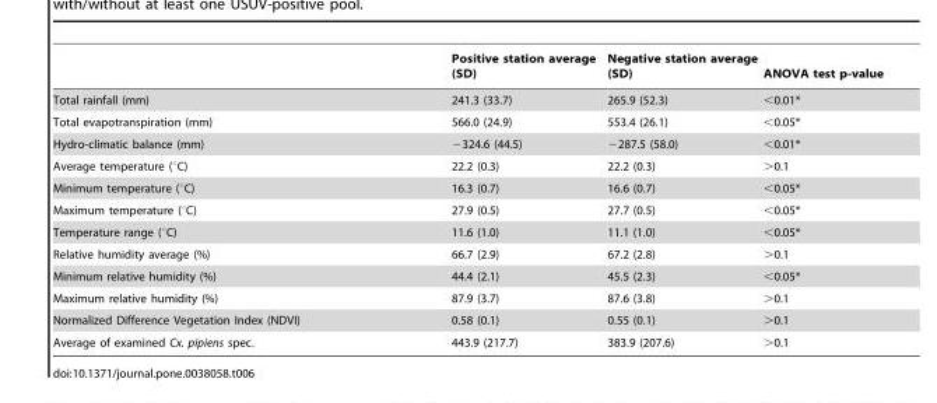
<table><thead><tr><td></td><td>Positive station average (SD)</td><td>Negative station average (SD)</td><td>ANOVA test p-value</td></tr></thead><tbody><tr><td>Total rainfall (mm)</td><td>241.3 (33.7)</td><td>265.9 (52.3)</td><td>&lt;0.01*</td></tr><tr><td>Total evapotranspiration (mm)</td><td>566.0 (24.9)</td><td>553.4 (26.1)</td><td>&lt;0.05*</td></tr><tr><td>Hydro-climatic balance (mm)</td><td>−324.6 (44.5)</td><td>−287.5 (58.0)</td><td>&lt;0.01*</td></tr><tr><td>Average temperature (°C)</td><td>22.2 (0.3)</td><td>22.2 (0.3)</td><td>&gt;0.1</td></tr><tr><td>Minimum temperature (°C)</td><td>16.3 (0.7)</td><td>16.6 (0.7)</td><td>&lt;0.05*</td></tr><tr><td>Maximum temperature (°C)</td><td>27.9 (0.5)</td><td>27.7 (0.5)</td><td>&lt;0.05*</td></tr><tr><td>Temperature range (°C)</td><td>11.6 (1.0)</td><td>11.1 (1.0)</td><td>&lt;0.05*</td></tr><tr><td>Relative humidity average (%)</td><td>66.7 (2.9)</td><td>67.2 (2.8)</td><td>&gt;0.1</td></tr><tr><td>Minimum relative humidity (%)</td><td>44.4 (2.1)</td><td>45.5 (2.3)</td><td>&lt;0.05*</td></tr><tr><td>Maximum relative humidity (%)</td><td>87.9 (3.7)</td><td>87.6 (3.8)</td><td>&gt;0.1</td></tr><tr><td>Normalized Difference Vegetation Index (NDVI)</td><td>0.58 (0.1)</td><td>0.55 (0.1)</td><td>&gt;0.1</td></tr><tr><td>Average of examined Cx. pipiens spec.</td><td>443.9 (217.7)</td><td>383.9 (207.6)</td><td>&gt;0.1</td></tr></tbody></table>